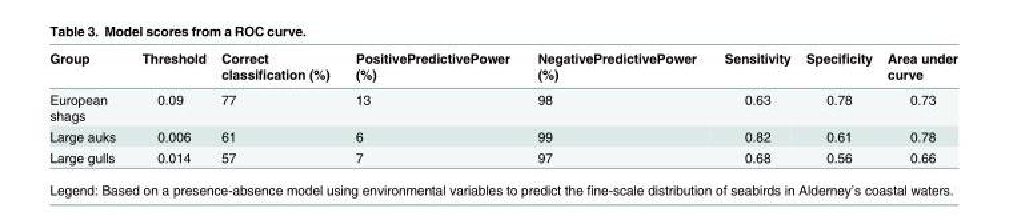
<table><thead><tr><td>Group</td><td>Threshold</td><td>Correct classification (%)</td><td>PositivePredictivePower (%)</td><td>NegativePredictivePower (%)</td><td>Sensitivity</td><td>Specificity</td><td>Area under curve</td></tr></thead><tbody><tr><td>European shags</td><td>0.09</td><td>77</td><td>13</td><td>98</td><td>0.63</td><td>0.78</td><td>0.73</td></tr><tr><td>Large auks</td><td>0.006</td><td>61</td><td>6</td><td>99</td><td>0.82</td><td>0.61</td><td>0.78</td></tr><tr><td>Large gulls</td><td>0.014</td><td>57</td><td>7</td><td>97</td><td>0.68</td><td>0.56</td><td>0.66</td></tr></tbody></table>